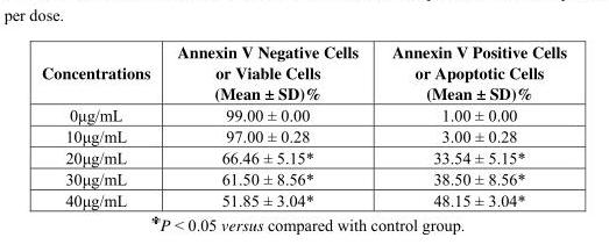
<table><thead><tr><td>Concentrations</td><td>Annexin V Negative Cells or Viable Cells (Mean ± SD)%</td><td>Annexin V Positive Cells or Apoptotic Cells (Mean ± SD)%</td></tr></thead><tbody><tr><td>0μg/mL</td><td>99.00 ± 0.00</td><td>1.00 ± 0.00</td></tr><tr><td>10μg/mL</td><td>97.00 ± 0.28</td><td>3.00 ± 0.28</td></tr><tr><td>20μg/mL</td><td>66.46 ± 5.15*</td><td>33.54 ± 5.15*</td></tr><tr><td>30μg/mL</td><td>61.50 ± 8.56*</td><td>38.50 ± 8.56*</td></tr><tr><td>40μg/mL</td><td>51.85 ± 3.04*</td><td>48.15 ± 3.04*</td></tr></tbody></table>